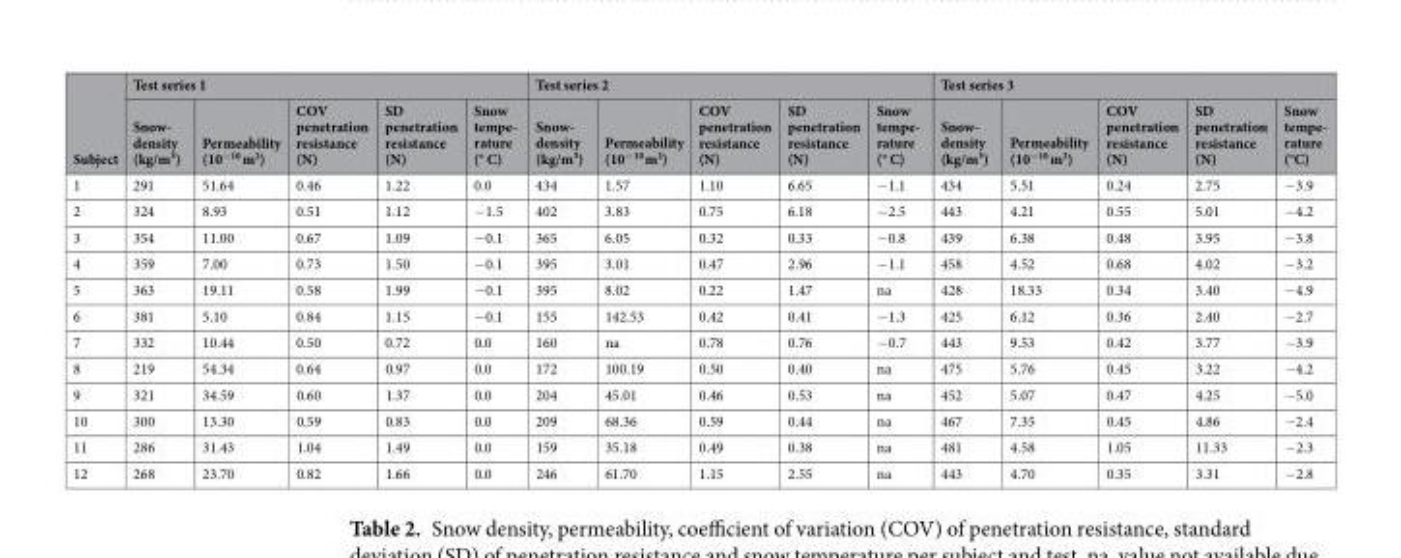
<table><thead><tr><td rowspan="2">Subject</td><td colspan="5">Test series 1</td><td colspan="5">Test series 2</td><td colspan="5">Test series 3</td></tr><tr><td>Snow- density (kg/m³)</td><td>Permeability (10<sup>−10</sup> m<sup>2</sup>)</td><td>COV penetration resistance (N)</td><td>SD penetration resistance (N)</td><td>Snow tempe- rature (° C)</td><td>Snow- density (kg/m³)</td><td>Permeability (10<sup>−10</sup> m<sup>2</sup>)</td><td>COV penetration resistance (N)</td><td>SD penetration resistance (N)</td><td>Snow tempe- rature (° C)</td><td>Snow- density (kg/m³)</td><td>Permeability (10<sup>−10</sup> m<sup>2</sup>)</td><td>COV penetration resistance (N)</td><td>SD penetration resistance (N)</td><td>Snow tempe- rature (°C)</td></tr></thead><tbody><tr><td>1</td><td>291</td><td>51.64</td><td>0.46</td><td>1.22</td><td>0.0</td><td>434</td><td>1.57</td><td>1.10</td><td>6.65</td><td>−1.1</td><td>434</td><td>5.51</td><td>0.24</td><td>2.75</td><td>−3.9</td></tr><tr><td>2</td><td>324</td><td>8.93</td><td>0.51</td><td>1.12</td><td>−1.5</td><td>402</td><td>3.83</td><td>0.75</td><td>6.18</td><td>−2.5</td><td>443</td><td>4.21</td><td>0.55</td><td>5.01</td><td>−4.2</td></tr><tr><td>3</td><td>354</td><td>11.00</td><td>0.67</td><td>1.09</td><td>−0.1</td><td>365</td><td>6.05</td><td>0.32</td><td>0.33</td><td>−0.8</td><td>439</td><td>6.38</td><td>0.48</td><td>3.95</td><td>−3.8</td></tr><tr><td>4</td><td>359</td><td>7.00</td><td>0.73</td><td>1.50</td><td>−0.1</td><td>395</td><td>3.01</td><td>0.47</td><td>2.96</td><td>−1.1</td><td>458</td><td>4.52</td><td>0.68</td><td>4.02</td><td>−3.2</td></tr><tr><td>5</td><td>363</td><td>19.11</td><td>0.58</td><td>1.99</td><td>−0.1</td><td>395</td><td>8.02</td><td>0.22</td><td>1.47</td><td>na</td><td>428</td><td>18.33</td><td>0.34</td><td>3.40</td><td>−4.9</td></tr><tr><td>6</td><td>381</td><td>5.10</td><td>0.84</td><td>1.15</td><td>−0.1</td><td>155</td><td>142.53</td><td>0.42</td><td>0.41</td><td>−1.3</td><td>425</td><td>6.12</td><td>0.36</td><td>2.40</td><td>−2.7</td></tr><tr><td>7</td><td>332</td><td>10.44</td><td>0.50</td><td>0.72</td><td>0.0</td><td>160</td><td>na</td><td>0.78</td><td>0.76</td><td>−0.7</td><td>443</td><td>9.53</td><td>0.42</td><td>3.77</td><td>−3.9</td></tr><tr><td>8</td><td>219</td><td>54.34</td><td>0.64</td><td>0.97</td><td>0.0</td><td>172</td><td>100.19</td><td>0.50</td><td>0.40</td><td>na</td><td>475</td><td>5.76</td><td>0.45</td><td>3.22</td><td>−4.2</td></tr><tr><td>9</td><td>321</td><td>34.59</td><td>0.60</td><td>1.37</td><td>0.0</td><td>204</td><td>45.01</td><td>0.46</td><td>0.53</td><td>na</td><td>452</td><td>5.07</td><td>0.47</td><td>4.25</td><td>−5.0</td></tr><tr><td>10</td><td>300</td><td>13.30</td><td>0.59</td><td>0.83</td><td>0.0</td><td>209</td><td>68.36</td><td>0.59</td><td>0.44</td><td>na</td><td>467</td><td>7.35</td><td>0.45</td><td>4.86</td><td>−2.4</td></tr><tr><td>11</td><td>286</td><td>31.43</td><td>1.04</td><td>1.49</td><td>0.0</td><td>159</td><td>35.18</td><td>0.49</td><td>0.38</td><td>na</td><td>481</td><td>4.58</td><td>1.05</td><td>11.33</td><td>−2.3</td></tr><tr><td>12</td><td>268</td><td>23.70</td><td>0.82</td><td>1.66</td><td>0.0</td><td>246</td><td>61.70</td><td>1.15</td><td>2.55</td><td>na</td><td>443</td><td>4.70</td><td>0.35</td><td>3.31</td><td>−2.8</td></tr></tbody></table>